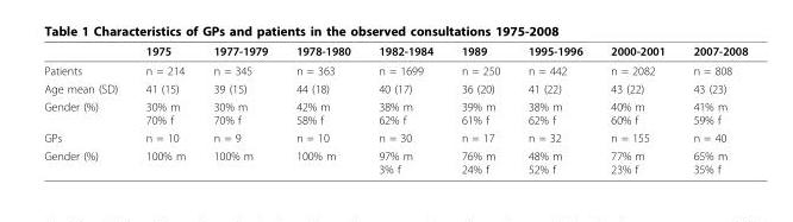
<table><thead><tr><td></td><td>1975</td><td>1977-1979</td><td>1978-1980</td><td>1982-1984</td><td>1989</td><td>1995-1996</td><td>2000-2001</td><td>2007-2008</td></tr></thead><tbody><tr><td>Patients</td><td>n = 214</td><td>n = 345</td><td>n = 363</td><td>n = 1699</td><td>n = 250</td><td>n = 442</td><td>n = 2082</td><td>n = 808</td></tr><tr><td>Age mean (SD)</td><td>41 (15)</td><td>39 (15)</td><td>44 (18)</td><td>40 (17)</td><td>36 (20)</td><td>41 (22)</td><td>43 (22)</td><td>43 (23)</td></tr><tr><td>Gender (%)</td><td>30% m 70% f</td><td>30% m 70% f</td><td>42% m 58% f</td><td>38% m 62% f</td><td>39% m 61% f</td><td>38% m 62% f</td><td>40% m 60% f</td><td>41% m 59% f</td></tr><tr><td>GPs</td><td>n = 10</td><td>n = 9</td><td>n = 10</td><td>n = 30</td><td>n = 17</td><td>n = 32</td><td>n = 155</td><td>n = 40</td></tr><tr><td>Gender (%)</td><td>100% m</td><td>100% m</td><td>100% m</td><td>97% m 3% f</td><td>76% m 24% f</td><td>48% m 52% f</td><td>77% m 23% f</td><td>65% m 35% f</td></tr></tbody></table>